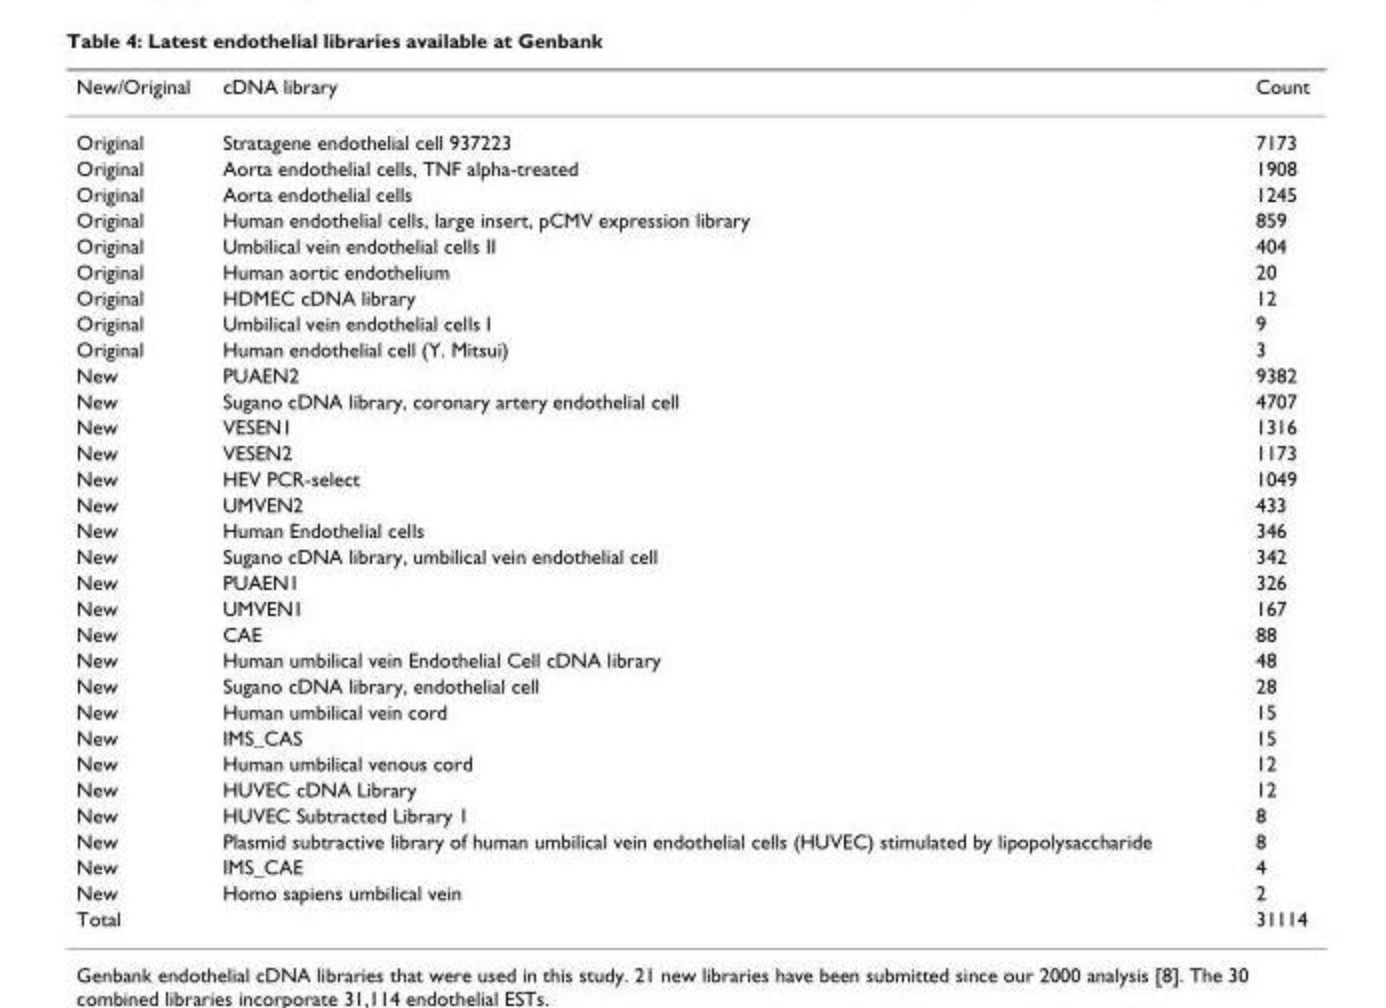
<table><thead><tr><td>New/Original</td><td>cDNA library</td><td>Count</td></tr></thead><tbody><tr><td>Original</td><td>Stratagene endothelial cell 937223</td><td>7173</td></tr><tr><td>Original</td><td>Aorta endothelial cells, TNF alpha-treated</td><td>1908</td></tr><tr><td>Original</td><td>Aorta endothelial cells</td><td>1245</td></tr><tr><td>Original</td><td>Human endothelial cells, large insert, pCMV expression library</td><td>859</td></tr><tr><td>Original</td><td>Umbilical vein endothelial cells II</td><td>404</td></tr><tr><td>Original</td><td>Human aortic endothelium</td><td>20</td></tr><tr><td>Original</td><td>HDMEC cDNA library</td><td>12</td></tr><tr><td>Original</td><td>Umbilical vein endothelial cells I</td><td>9</td></tr><tr><td>Original</td><td>Human endothelial cell (Y. Mitsui)</td><td>3</td></tr><tr><td>New</td><td>PUAEN2</td><td>9382</td></tr><tr><td>New</td><td>Sugano cDNA library, coronary artery endothelial cell</td><td>4707</td></tr><tr><td>New</td><td>VESEN1</td><td>1316</td></tr><tr><td>New</td><td>VESEN2</td><td>1173</td></tr><tr><td>New</td><td>HEV PCR-select</td><td>1049</td></tr><tr><td>New</td><td>UMVEN2</td><td>433</td></tr><tr><td>New</td><td>Human Endothelial cells</td><td>346</td></tr><tr><td>New</td><td>Sugano cDNA library, umbilical vein endothelial cell</td><td>342</td></tr><tr><td>New</td><td>PUAEN1</td><td>326</td></tr><tr><td>New</td><td>UMVEN1</td><td>167</td></tr><tr><td>New</td><td>CAE</td><td>88</td></tr><tr><td>New</td><td>Human umbilical vein Endothelial Cell cDNA library</td><td>48</td></tr><tr><td>New</td><td>Sugano cDNA library, endothelial cell</td><td>28</td></tr><tr><td>New</td><td>Human umbilical vein cord</td><td>15</td></tr><tr><td>New</td><td>IMS_CAS</td><td>15</td></tr><tr><td>New</td><td>Human umbilical venous cord</td><td>12</td></tr><tr><td>New</td><td>HUVEC cDNA Library</td><td>12</td></tr><tr><td>New</td><td>HUVEC Subtracted Library 1</td><td>8</td></tr><tr><td>New</td><td>Plasmid subtractive library of human umbilical vein endothelial cells (HUVEC) stimulated by lipopolysaccharide</td><td>8</td></tr><tr><td>New</td><td>IMS_CAE</td><td>4</td></tr><tr><td>New</td><td>Homo sapiens umbilical vein</td><td>2</td></tr><tr><td>Total</td><td></td><td>31114</td></tr></tbody></table>